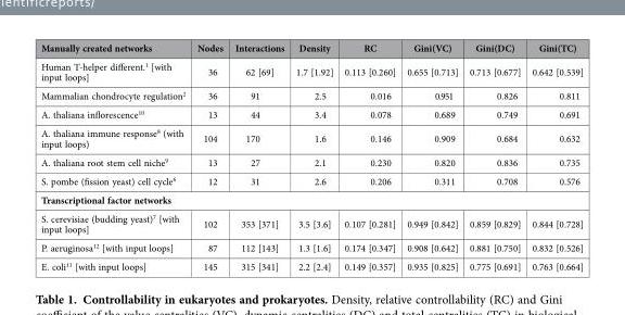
<table><thead><tr><td>Manually created networks</td><td>Nodes</td><td>Interactions</td><td>Density</td><td>RC</td><td>Gini(VC)</td><td>Gini(DC)</td><td>Gini(TC)</td></tr></thead><tbody><tr><td>Human T-helper different.<sup>1</sup> [with input loops]</td><td>36</td><td>62 [69]</td><td>1.7 [1.92]</td><td>0.113 [0.260]</td><td>0.655 [0.713]</td><td>0.713 [0.677]</td><td>0.642 [0.539]</td></tr><tr><td>Mammalian chondrocyte regulation<sup>2</sup></td><td>36</td><td>91</td><td>2.5</td><td>0.016</td><td>0.951</td><td>0.826</td><td>0.811</td></tr><tr><td>A. thaliana inflorescence<sup>10</sup></td><td>13</td><td>44</td><td>3.4</td><td>0.078</td><td>0.689</td><td>0.749</td><td>0.691</td></tr><tr><td>A. thaliana immune response<sup>8</sup> (with input loops)</td><td>104</td><td>170</td><td>1.6</td><td>0.146</td><td>0.909</td><td>0.684</td><td>0.632</td></tr><tr><td>A. thaliana root stem cell niche<sup>9</sup></td><td>13</td><td>27</td><td>2.1</td><td>0.230</td><td>0.820</td><td>0.836</td><td>0.735</td></tr><tr><td>S. pombe (fission yeast) cell cycle<sup>6</sup></td><td>12</td><td>31</td><td>2.6</td><td>0.206</td><td>0.311</td><td>0.708</td><td>0.576</td></tr><tr><td colspan="8">Transcriptional factor networks</td></tr><tr><td>S. cerevisiae (budding yeast)<sup>7</sup> [with input loops]</td><td>102</td><td>353 [371]</td><td>3.5 [3.6]</td><td>0.107 [0.281]</td><td>0.949 [0.842]</td><td>0.859 [0.829]</td><td>0.844 [0.728]</td></tr><tr><td>P. aeruginosa<sup>12</sup> [with input loops]</td><td>87</td><td>112 [143]</td><td>1.3 [1.6]</td><td>0.174 [0.347]</td><td>0.908 [0.642]</td><td>0.881 [0.750]</td><td>0.832 [0.526]</td></tr><tr><td>E. coli<sup>11</sup> [with input loops]</td><td>145</td><td>315 [341]</td><td>2.2 [2.4]</td><td>0.149 [0.357]</td><td>0.935 [0.825]</td><td>0.775 [0.691]</td><td>0.763 [0.664]</td></tr></tbody></table>